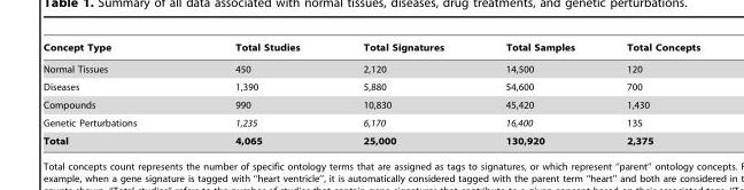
<table><thead><tr><td>Concept Type</td><td>Total Studies</td><td>Total Signatures</td><td>Total Samples</td><td>Total Concepts</td></tr></thead><tbody><tr><td>Normal Tissues</td><td>450</td><td>2,120</td><td>14,500</td><td>120</td></tr><tr><td>Diseases</td><td>1,390</td><td>5,880</td><td>54,600</td><td>700</td></tr><tr><td>Compounds</td><td>990</td><td>10,830</td><td>45,420</td><td>1,430</td></tr><tr><td>Genetic Perturbations</td><td>1,235</td><td>6,170</td><td>16,400</td><td>135</td></tr><tr><td>Total</td><td>4,065</td><td>25,000</td><td>130,920</td><td>2,375</td></tr></tbody></table>